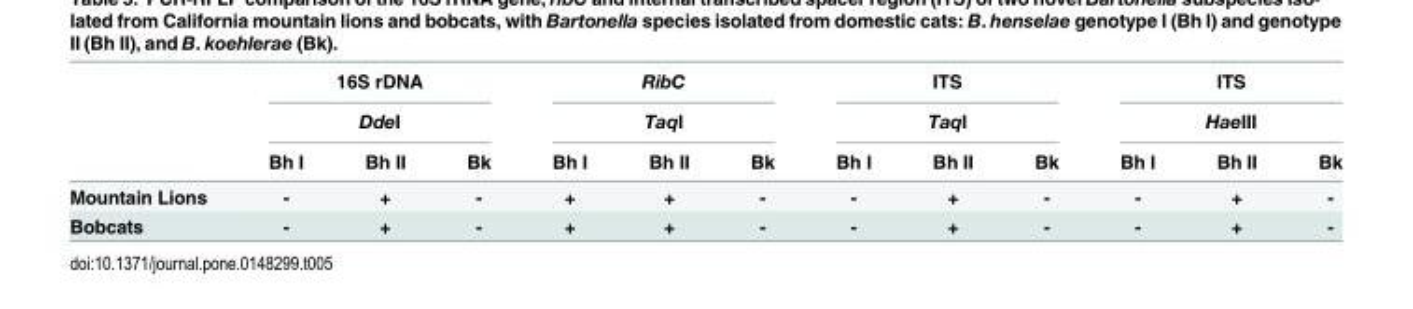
<table><thead><tr><td rowspan="3"></td><td rowspan="2" colspan="3">16S rDNA DdeI</td><td rowspan="2" colspan="3">RibC TaqI</td><td rowspan="2" colspan="3">ITS TaqI</td><td rowspan="2" colspan="3">ITS HaeIII</td></tr><tr></tr><tr><td>Bh I</td><td>Bh II</td><td>Bk</td><td>Bh I</td><td>Bh II</td><td>Bk</td><td>Bh I</td><td>Bh II</td><td>Bk</td><td>Bh I</td><td>Bh II</td><td>Bk</td></tr></thead><tbody><tr><td>Mountain Lions</td><td>-</td><td>+</td><td>-</td><td>+</td><td>+</td><td>-</td><td>-</td><td>+</td><td>-</td><td>-</td><td>+</td><td>-</td></tr><tr><td>Bobcats</td><td>-</td><td>+</td><td>-</td><td>+</td><td>+</td><td>-</td><td>-</td><td>+</td><td>-</td><td>-</td><td>+</td><td>-</td></tr></tbody></table>